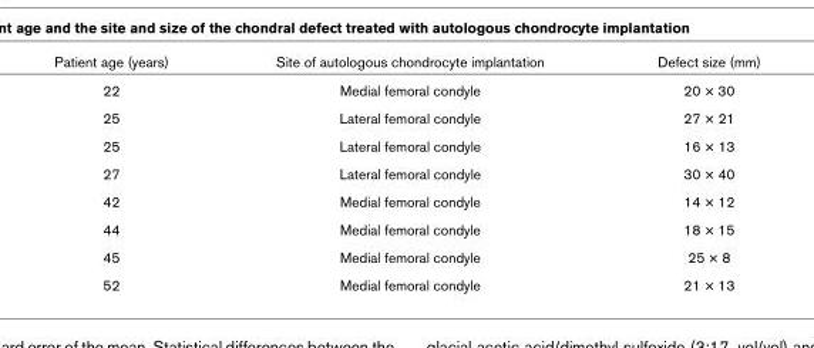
<table><thead><tr><td>Patient age (years)</td><td>Site of autologous chondrocyte implantation</td><td>Defect size (mm)</td></tr></thead><tbody><tr><td>22</td><td>Medial femoral condyle</td><td>20 × 30</td></tr><tr><td>25</td><td>Lateral femoral condyle</td><td>27 × 21</td></tr><tr><td>25</td><td>Lateral femoral condyle</td><td>16 × 13</td></tr><tr><td>27</td><td>Lateral femoral condyle</td><td>30 × 40</td></tr><tr><td>42</td><td>Medial femoral condyle</td><td>14 × 12</td></tr><tr><td>44</td><td>Medial femoral condyle</td><td>18 × 15</td></tr><tr><td>45</td><td>Medial femoral condyle</td><td>25 × 8</td></tr><tr><td>52</td><td>Medial femoral condyle</td><td>21 × 13</td></tr></tbody></table>